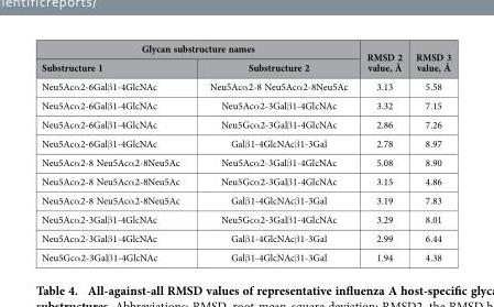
<table><thead><tr><td colspan="2">Glycan substructure names</td><td rowspan="2">RMSD 2 value, Å</td><td rowspan="2">RMSD 3 value, Å</td></tr><tr><td>Substructure 1</td><td>Substructure 2</td></tr></thead><tbody><tr><td>Neu5Acα 2-6Galβ 1-4GlcNAc</td><td>Neu5Acα 2-8 Neu5Acα 2-8Neu5Ac</td><td>3.13</td><td>5.58</td></tr><tr><td>Neu5Acα 2-6Galβ 1-4GlcNAc</td><td>Neu5Acα 2-3Galβ 1-4GlcNAc</td><td>3.32</td><td>7.15</td></tr><tr><td>Neu5Acα 2-6Galβ 1-4GlcNAc</td><td>Neu5Gcα 2-3Galβ 1-4GlcNAc</td><td>2.86</td><td>7.26</td></tr><tr><td>Neu5Acα 2-6Galβ 1-4GlcNAc</td><td>Galβ 1-4GlcNAcβ 1-3Gal</td><td>2.78</td><td>8.97</td></tr><tr><td>Neu5Acα 2-8 Neu5Acα 2-8Neu5Ac</td><td>Neu5Acα 2-3Galβ 1-4GlcNAc</td><td>5.08</td><td>8.90</td></tr><tr><td>Neu5Acα 2-8 Neu5Acα 2-8Neu5Ac</td><td>Neu5Gcα 2-3Galβ 1-4GlcNAc</td><td>3.15</td><td>4.86</td></tr><tr><td>Neu5Acα 2-8 Neu5Acα 2-8Neu5Ac</td><td>Galβ 1-4GlcNAcβ 1-3Gal</td><td>3.19</td><td>7.83</td></tr><tr><td>Neu5Acα 2-3Galβ 1-4GlcNAc</td><td>Neu5Gcα 2-3Galβ 1-4GlcNAc</td><td>3.29</td><td>8.01</td></tr><tr><td>Neu5Acα 2-3Galβ 1-4GlcNAc</td><td>Galβ 1-4GlcNAcβ 1-3Gal</td><td>2.99</td><td>6.44</td></tr><tr><td>Neu5Gcα 2-3Galβ 1-4GlcNAc</td><td>Galβ 1-4GlcNAcβ 1-3Gal</td><td>1.94</td><td>4.38</td></tr></tbody></table>